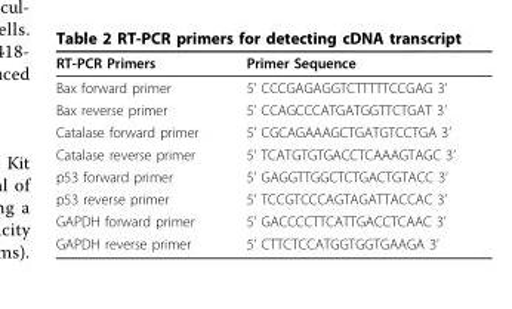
<table><thead><tr><td>RT-PCR Primers</td><td>Primer Sequence</td></tr></thead><tbody><tr><td>Bax forward primer</td><td>5’ CCCGAGAGGTCTTTTTCCGAG 3’</td></tr><tr><td>Bax reverse primer</td><td>5’ CCAGCCCATGATGGTTCTGAT 3’</td></tr><tr><td>Catalase forward primer</td><td>5’ CGCAGAAAGCTGATGTCCTGA 3’</td></tr><tr><td>Catalase reverse primer</td><td>5’ TCATGTGTGACCTCAAAGTAGC 3’</td></tr><tr><td>p53 forward primer</td><td>5’ GAGGTTGGCTCTGACTGTACC 3’</td></tr><tr><td>p53 reverse primer</td><td>5’ TCCGTCCCAGTAGATTACCAC 3’</td></tr><tr><td>GAPDH forward primer</td><td>5’ GACCCCTTCATTGACCTCAAC 3’</td></tr><tr><td>GAPDH reverse primer</td><td>5’ CTTCTCCATGGTGGTGAAGA 3’</td></tr></tbody></table>